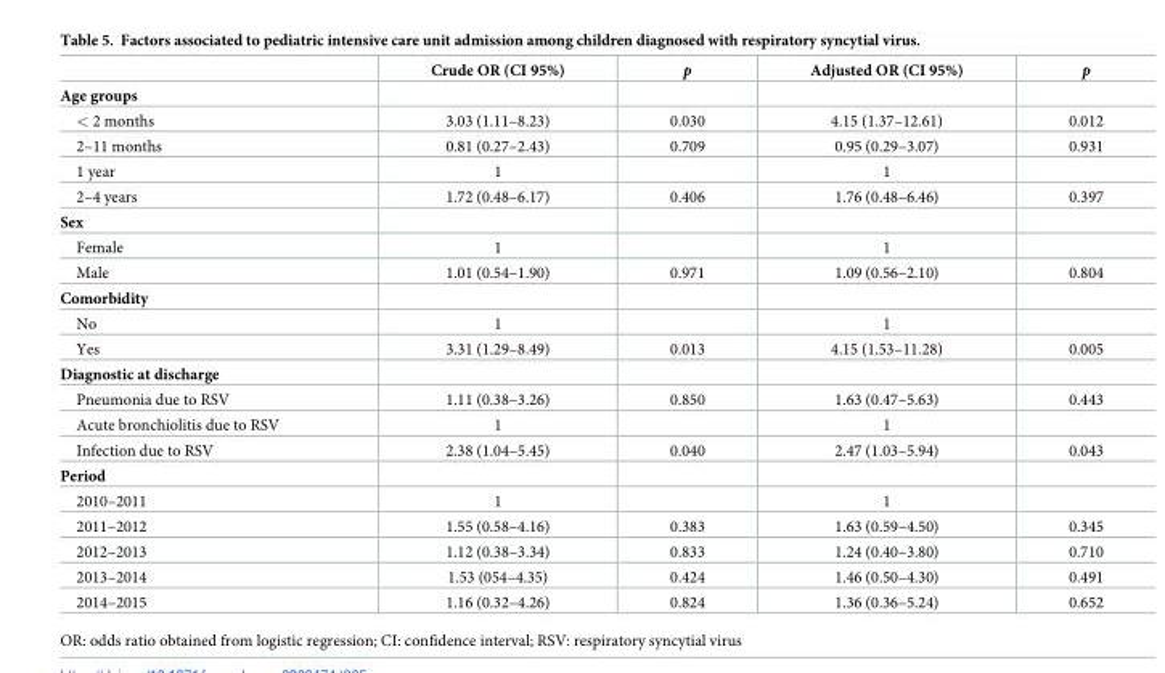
<table><thead><tr><td></td><td>Crude OR (CI 95%)</td><td>p</td><td>Adjusted OR (CI 95%)</td><td>p</td></tr></thead><tbody><tr><td colspan="5">Age groups</td></tr><tr><td>&lt; 2 months</td><td>3.03 (1.11–8.23)</td><td>0.030</td><td>4.15 (1.37–12.61)</td><td>0.012</td></tr><tr><td>2–11 months</td><td>0.81 (0.27–2.43)</td><td>0.709</td><td>0.95 (0.29–3.07)</td><td>0.931</td></tr><tr><td>1 year</td><td>1</td><td></td><td>1</td><td></td></tr><tr><td>2–4 years</td><td>1.72 (0.48–6.17)</td><td>0.406</td><td>1.76 (0.48–6.46)</td><td>0.397</td></tr><tr><td colspan="5">Sex</td></tr><tr><td>Female</td><td>1</td><td></td><td>1</td><td></td></tr><tr><td>Male</td><td>1.01 (0.54–1.90)</td><td>0.971</td><td>1.09 (0.56–2.10)</td><td>0.804</td></tr><tr><td colspan="5">Comorbidity</td></tr><tr><td>No</td><td>1</td><td></td><td>1</td><td></td></tr><tr><td>Yes</td><td>3.31 (1.29–8.49)</td><td>0.013</td><td>4.15 (1.53–11.28)</td><td>0.005</td></tr><tr><td colspan="5">Diagnostic at discharge</td></tr><tr><td>Pneumonia due to RSV</td><td>1.11 (0.38–3.26)</td><td>0.850</td><td>1.63 (0.47–5.63)</td><td>0.443</td></tr><tr><td>Acute bronchiolitis due to RSV</td><td>1</td><td></td><td>1</td><td></td></tr><tr><td>Infection due to RSV</td><td>2.38 (1.04–5.45)</td><td>0.040</td><td>2.47 (1.03–5.94)</td><td>0.043</td></tr><tr><td colspan="5">Period</td></tr><tr><td>2010–2011</td><td>1</td><td></td><td>1</td><td></td></tr><tr><td>2011–2012</td><td>1.55 (0.58–4.16)</td><td>0.383</td><td>1.63 (0.59–4.50)</td><td>0.345</td></tr><tr><td>2012–2013</td><td>1.12 (0.38–3.34)</td><td>0.833</td><td>1.24 (0.40–3.80)</td><td>0.710</td></tr><tr><td>2013–2014</td><td>1.53 (054–4.35)</td><td>0.424</td><td>1.46 (0.50–4.30)</td><td>0.491</td></tr><tr><td>2014–2015</td><td>1.16 (0.32–4.26)</td><td>0.824</td><td>1.36 (0.36–5.24)</td><td>0.652</td></tr></tbody></table>